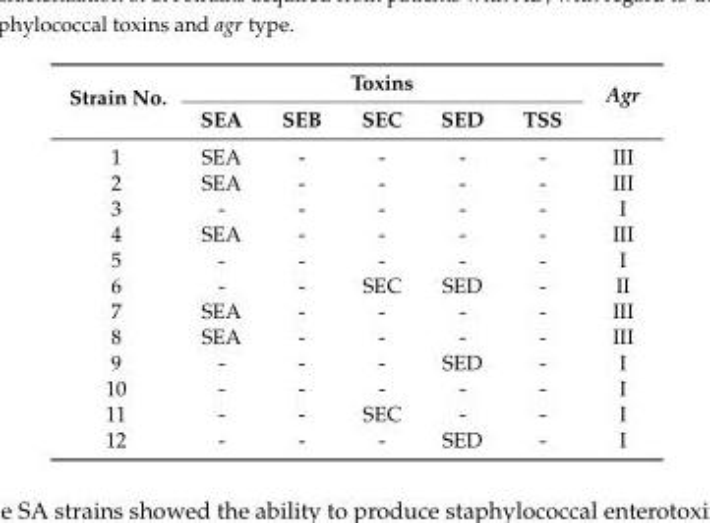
<table><thead><tr><td rowspan="2">Strain No.</td><td colspan="5">Toxins</td><td rowspan="2">Agr</td></tr><tr><td>SEA</td><td>SEB</td><td>SEC</td><td>SED</td><td>TSS</td></tr></thead><tbody><tr><td>1</td><td>SEA</td><td>-</td><td>-</td><td>-</td><td>-</td><td>III</td></tr><tr><td>2</td><td>SEA</td><td>-</td><td>-</td><td>-</td><td>-</td><td>III</td></tr><tr><td>3</td><td>-</td><td>-</td><td>-</td><td>-</td><td>-</td><td>I</td></tr><tr><td>4</td><td>SEA</td><td>-</td><td>-</td><td>-</td><td>-</td><td>III</td></tr><tr><td>5</td><td>-</td><td>-</td><td>-</td><td>-</td><td>-</td><td>I</td></tr><tr><td>6</td><td>-</td><td>-</td><td>SEC</td><td>SED</td><td>-</td><td>II</td></tr><tr><td>7</td><td>SEA</td><td>-</td><td>-</td><td>-</td><td>-</td><td>III</td></tr><tr><td>8</td><td>SEA</td><td>-</td><td>-</td><td>-</td><td>-</td><td>III</td></tr><tr><td>9</td><td>-</td><td>-</td><td>-</td><td>SED</td><td>-</td><td>I</td></tr><tr><td>10</td><td>-</td><td>-</td><td>-</td><td>-</td><td>-</td><td>I</td></tr><tr><td>11</td><td>-</td><td>-</td><td>SEC</td><td>-</td><td>-</td><td>I</td></tr><tr><td>12</td><td>-</td><td>-</td><td>-</td><td>SED</td><td>-</td><td>I</td></tr></tbody></table>